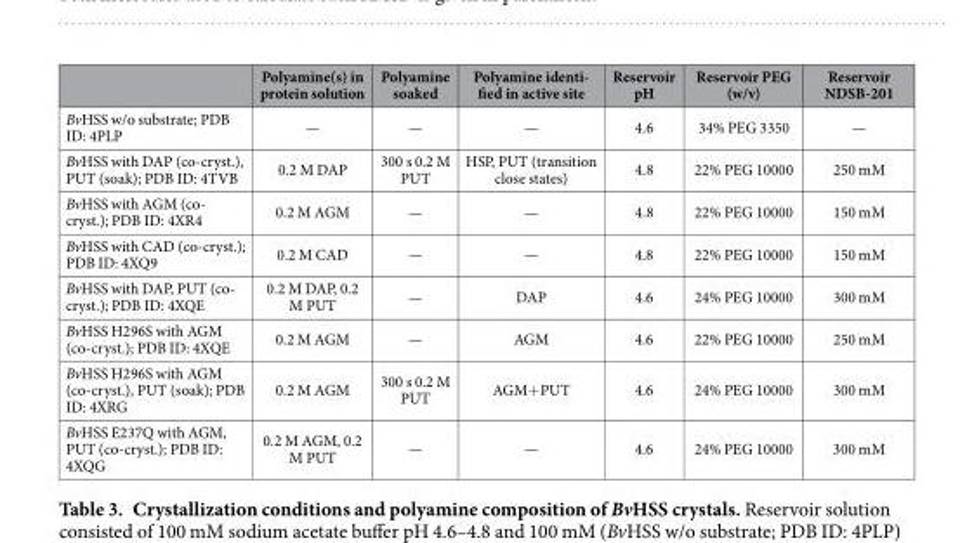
<table><thead><tr><td></td><td>Polyamine(s) in protein solution</td><td>Polyamine soaked</td><td>Polyamine identi- fied in active site</td><td>Reservoir pH</td><td>Reservoir PEG (w/v)</td><td>Reservoir NDSB-201</td></tr></thead><tbody><tr><td>BvHSS w/o substrate; PDB ID: 4PLP</td><td>—</td><td>—</td><td>—</td><td>4.6</td><td>34% PEG 3350</td><td>—</td></tr><tr><td>BvHSS with DAP (co-cryst.), PUT (soak); PDB ID: 4TVB</td><td>0.2 M DAP</td><td>300 s 0.2 M PUT</td><td>HSP, PUT (transition close states)</td><td>4.8</td><td>22% PEG 10000</td><td>250 mM</td></tr><tr><td>BvHSS with AGM (co- cryst.); PDB ID: 4XR4</td><td>0.2 M AGM</td><td>—</td><td>—</td><td>4.8</td><td>22% PEG 10000</td><td>150 mM</td></tr><tr><td>BvHSS with CAD (co-cryst.); PDB ID: 4XQ9</td><td>0.2 M CAD</td><td>—</td><td>—</td><td>4.8</td><td>22% PEG 10000</td><td>150 mM</td></tr><tr><td>BvHSS with DAP, PUT (co- cryst.); PDB ID: 4XQE</td><td>0.2 M DAP, 0.2 M PUT</td><td>—</td><td>DAP</td><td>4.6</td><td>24% PEG 10000</td><td>300 mM</td></tr><tr><td>BvHSS H296S with AGM (co-cryst.); PDB ID: 4XQE</td><td>0.2 M AGM</td><td>—</td><td>AGM</td><td>4.6</td><td>22% PEG 10000</td><td>250 mM</td></tr><tr><td>BvHSS H296S with AGM (co-cryst.), PUT (soak); PDB ID: 4XRG</td><td>0.2 M AGM</td><td>300 s 0.2 M PUT</td><td>AGM+ PUT</td><td>4.6</td><td>24% PEG 10000</td><td>300 mM</td></tr><tr><td>BvHSS E237Q with AGM, PUT (co-cryst.); PDB ID: 4XQG</td><td>0.2 M AGM, 0.2 M PUT</td><td>—</td><td>—</td><td>4.6</td><td>24% PEG 10000</td><td>300 mM</td></tr></tbody></table>